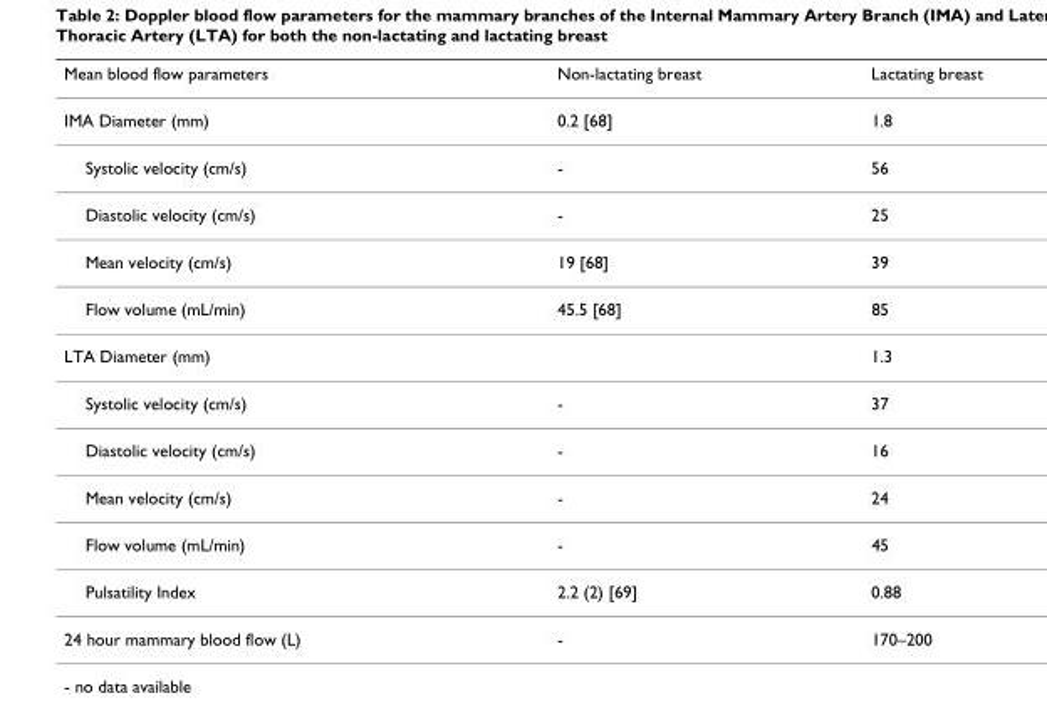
<table><thead><tr><td>Mean blood flow parameters</td><td>Non-lactating breast</td><td>Lactating breast</td></tr></thead><tbody><tr><td>IMA Diameter (mm)</td><td>0.2 [68]</td><td>1.8</td></tr><tr><td>Systolic velocity (cm/s)</td><td>-</td><td>56</td></tr><tr><td>Diastolic velocity (cm/s)</td><td>-</td><td>25</td></tr><tr><td>Mean velocity (cm/s)</td><td>19 [68]</td><td>39</td></tr><tr><td>Flow volume (mL/min)</td><td>45.5 [68]</td><td>85</td></tr><tr><td>LTA Diameter (mm)</td><td></td><td>1.3</td></tr><tr><td>Systolic velocity (cm/s)</td><td>-</td><td>37</td></tr><tr><td>Diastolic velocity (cm/s)</td><td>-</td><td>16</td></tr><tr><td>Mean velocity (cm/s)</td><td>-</td><td>24</td></tr><tr><td>Flow volume (mL/min)</td><td>-</td><td>45</td></tr><tr><td>Pulsatility Index</td><td>2.2 (2) [69]</td><td>0.88</td></tr><tr><td>24 hour mammary blood flow (L)</td><td>-</td><td>170–200</td></tr></tbody></table>